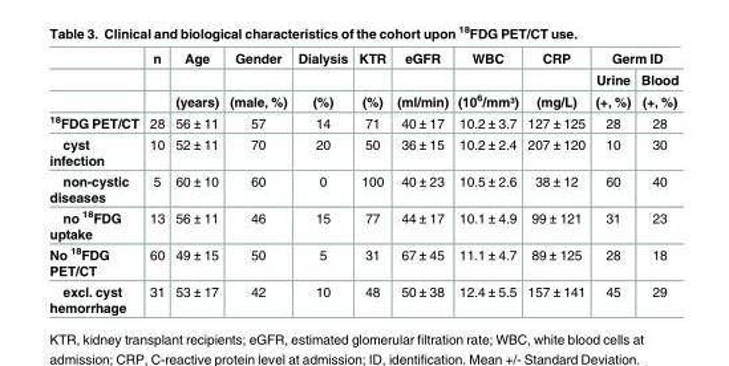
<table><thead><tr><td rowspan="3"></td><td rowspan="3">n</td><td rowspan="3">Age (years)</td><td rowspan="3">Gender (male, %)</td><td rowspan="3">Dialysis (%)</td><td rowspan="3">KTR (%)</td><td rowspan="3">eGFR (ml/min)</td><td rowspan="3">WBC (10<sup>6</sup>/mm³)</td><td rowspan="3">CRP (mg/L)</td><td colspan="2">Germ ID</td></tr><tr><td rowspan="2">Urine (+, %)</td><td rowspan="2">Blood (+, %)</td></tr><tr></tr></thead><tbody><tr><td><sup>18</sup>FDG PET/CT</td><td>28</td><td>56 ± 11</td><td>57</td><td>14</td><td>71</td><td>40 ± 17</td><td>10.2 ± 3.7</td><td>127 ± 125</td><td>28</td><td>28</td></tr><tr><td>cyst infection</td><td>10</td><td>52 ± 11</td><td>70</td><td>20</td><td>50</td><td>36 ± 15</td><td>10.2 ± 2.4</td><td>207 ± 120</td><td>10</td><td>30</td></tr><tr><td>non-cystic diseases</td><td>5</td><td>60 ± 10</td><td>60</td><td>0</td><td>100</td><td>40 ± 23</td><td>10.5 ± 2.6</td><td>38 ± 12</td><td>60</td><td>40</td></tr><tr><td>no <sup>18</sup>FDG uptake</td><td>13</td><td>56 ± 11</td><td>46</td><td>15</td><td>77</td><td>44 ± 17</td><td>10.1 ± 4.9</td><td>99 ± 121</td><td>31</td><td>23</td></tr><tr><td>No <sup>18</sup>FDG PET/CT</td><td>60</td><td>49 ± 15</td><td>50</td><td>5</td><td>31</td><td>67 ± 45</td><td>11.1 ± 4.7</td><td>89 ± 125</td><td>28</td><td>18</td></tr><tr><td>excl. cyst hemorrhage</td><td>31</td><td>53 ± 17</td><td>42</td><td>10</td><td>48</td><td>50 ± 38</td><td>12.4 ± 5.5</td><td>157 ± 141</td><td>45</td><td>29</td></tr></tbody></table>